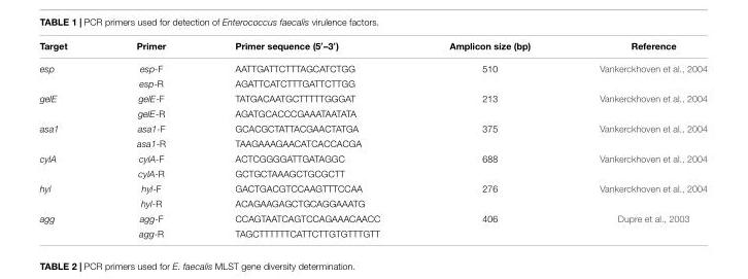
<table><thead><tr><td>Target</td><td>Primer</td><td>Primer sequence (5′–3′)</td><td>Amplicon size (bp)</td><td>Reference</td></tr></thead><tbody><tr><td rowspan="2">esp</td><td>esp-F</td><td>AATTGATTCTTTAGCATCTGG</td><td>510</td><td>Vankerckhoven et al., 2004</td></tr><tr><td>esp-R</td><td>AGATTCATCTTTGATTCTTGG</td><td></td><td></td></tr><tr><td rowspan="2">gelE</td><td>gelE-F</td><td>TATGACAATGCTTTTTGGGAT</td><td>213</td><td>Vankerckhoven et al., 2004</td></tr><tr><td>gelE-R</td><td>AGATGCACCCGAAATAATATA</td><td></td><td></td></tr><tr><td rowspan="2">asa1</td><td>asa1-F</td><td>GCACGCTATTACGAACTATGA</td><td>375</td><td>Vankerckhoven et al., 2004</td></tr><tr><td>asa1-R</td><td>TAAGAAAGAACATCACCACGA</td><td></td><td></td></tr><tr><td rowspan="2">cylA</td><td>cylA-F</td><td>ACTCGGGGATTGATAGGC</td><td>688</td><td>Vankerckhoven et al., 2004</td></tr><tr><td>cylA-R</td><td>GCTGCTAAAGCTGCGCTT</td><td></td><td></td></tr><tr><td rowspan="2">hyl</td><td>hyl-F</td><td>GACTGACGTCCAAGTTTCCAA</td><td>276</td><td>Vankerckhoven et al., 2004</td></tr><tr><td>hyl-R</td><td>ACAGAAGAGCTGCAGGAAATG</td><td></td><td></td></tr><tr><td rowspan="2">agg</td><td>agg-F</td><td>CCAGTAATCAGTCCAGAAACAACC</td><td>406</td><td>Dupre et al., 2003</td></tr><tr><td>agg-R</td><td>TAGCTTTTTTCATTCTTGTGTTTGTT</td><td></td><td></td></tr></tbody></table>